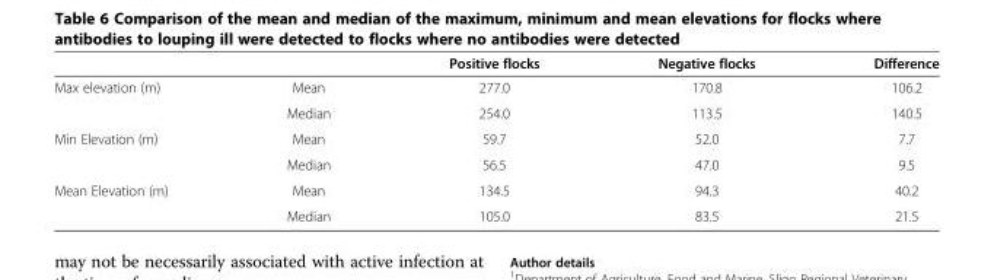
<table><thead><tr><td></td><td></td><td>Positive flocks</td><td>Negative flocks</td><td>Difference</td></tr></thead><tbody><tr><td rowspan="2">Max elevation (m)</td><td>Mean</td><td>277.0</td><td>170.8</td><td>106.2</td></tr><tr><td>Median</td><td>254.0</td><td>113.5</td><td>140.5</td></tr><tr><td rowspan="2">Min Elevation (m)</td><td>Mean</td><td>59.7</td><td>52.0</td><td>7.7</td></tr><tr><td>Median</td><td>56.5</td><td>47.0</td><td>9.5</td></tr><tr><td rowspan="2">Mean Elevation (m)</td><td>Mean</td><td>134.5</td><td>94.3</td><td>40.2</td></tr><tr><td>Median</td><td>105.0</td><td>83.5</td><td>21.5</td></tr></tbody></table>